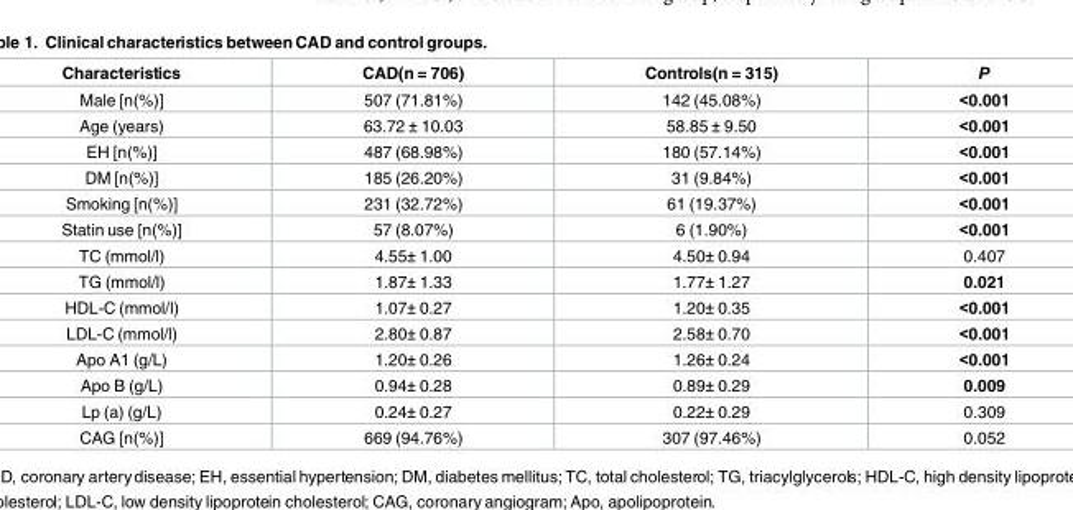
<table><thead><tr><td>Characteristics</td><td>CAD(n = 706)</td><td>Controls(n = 315)</td><td>P</td></tr></thead><tbody><tr><td>Male [n(%)]</td><td>507 (71.81%)</td><td>142 (45.08%)</td><td>&lt;0.001</td></tr><tr><td>Age (years)</td><td>63.72 ± 10.03</td><td>58.85 ± 9.50</td><td>&lt;0.001</td></tr><tr><td>EH [n(%)]</td><td>487 (68.98%)</td><td>180 (57.14%)</td><td>&lt;0.001</td></tr><tr><td>DM [n(%)]</td><td>185 (26.20%)</td><td>31 (9.84%)</td><td>&lt;0.001</td></tr><tr><td>Smoking [n(%)]</td><td>231 (32.72%)</td><td>61 (19.37%)</td><td>&lt;0.001</td></tr><tr><td>Statin use [n(%)]</td><td>57 (8.07%)</td><td>6 (1.90%)</td><td>&lt;0.001</td></tr><tr><td>TC (mmol/l)</td><td>4.55± 1.00</td><td>4.50± 0.94</td><td>0.407</td></tr><tr><td>TG (mmol/l)</td><td>1.87± 1.33</td><td>1.77± 1.27</td><td>0.021</td></tr><tr><td>HDL-C (mmol/l)</td><td>1.07± 0.27</td><td>1.20± 0.35</td><td>&lt;0.001</td></tr><tr><td>LDL-C (mmol/l)</td><td>2.80± 0.87</td><td>2.58± 0.70</td><td>&lt;0.001</td></tr><tr><td>Apo A1 (g/L)</td><td>1.20± 0.26</td><td>1.26± 0.24</td><td>&lt;0.001</td></tr><tr><td>Apo B (g/L)</td><td>0.94± 0.28</td><td>0.89± 0.29</td><td>0.009</td></tr><tr><td>Lp (a) (g/L)</td><td>0.24± 0.27</td><td>0.22± 0.29</td><td>0.309</td></tr><tr><td>CAG [n(%)]</td><td>669 (94.76%)</td><td>307 (97.46%)</td><td>0.052</td></tr></tbody></table>